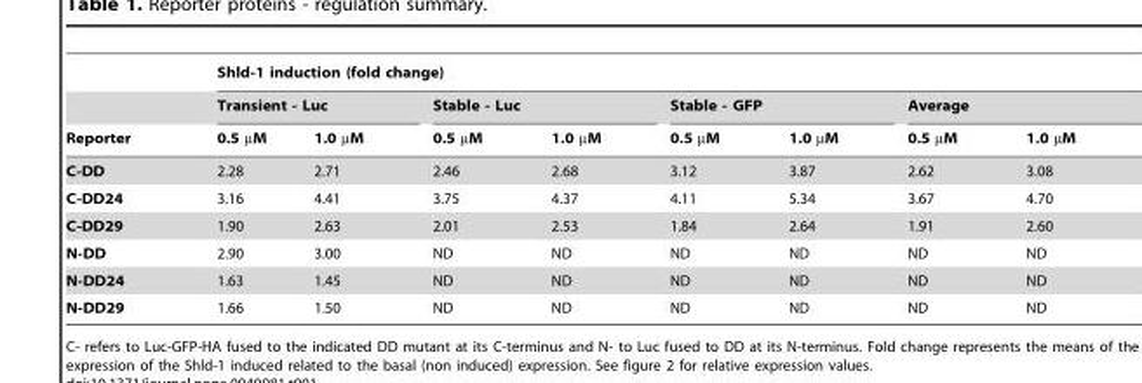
<table><thead><tr><td rowspan="3">Reporter</td><td colspan="8">Shld-1 induction (fold change)</td></tr><tr><td colspan="2">Transient - Luc</td><td colspan="2">Stable - Luc</td><td colspan="2">Stable - GFP</td><td colspan="2">Average</td></tr><tr><td>0.5 µM</td><td>1.0 µM</td><td>0.5 µM</td><td>1.0 µM</td><td>0.5 µM</td><td>1.0 µM</td><td>0.5 µM</td><td>1.0 µM</td></tr></thead><tbody><tr><td>C-DD</td><td>2.28</td><td>2.71</td><td>2.46</td><td>2.68</td><td>3.12</td><td>3.87</td><td>2.62</td><td>3.08</td></tr><tr><td>C-DD24</td><td>3.16</td><td>4.41</td><td>3.75</td><td>4.37</td><td>4.11</td><td>5.34</td><td>3.67</td><td>4.70</td></tr><tr><td>C-DD29</td><td>1.90</td><td>2.63</td><td>2.01</td><td>2.53</td><td>1.84</td><td>2.64</td><td>1.91</td><td>2.60</td></tr><tr><td>N-DD</td><td>2.90</td><td>3.00</td><td>ND</td><td>ND</td><td>ND</td><td>ND</td><td>ND</td><td>ND</td></tr><tr><td>N-DD24</td><td>1.63</td><td>1.45</td><td>ND</td><td>ND</td><td>ND</td><td>ND</td><td>ND</td><td>ND</td></tr><tr><td>N-DD29</td><td>1.66</td><td>1.50</td><td>ND</td><td>ND</td><td>ND</td><td>ND</td><td>ND</td><td>ND</td></tr></tbody></table>